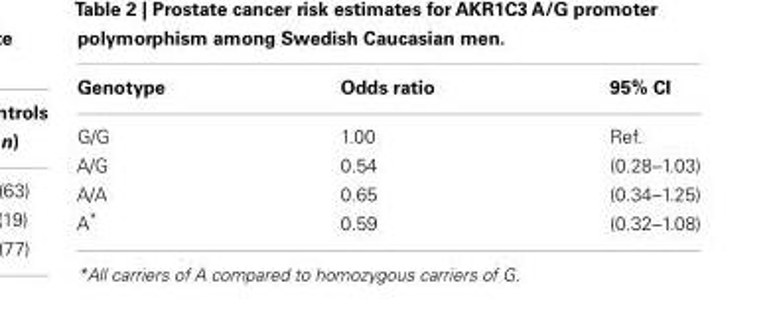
<table><thead><tr><td>Genotype</td><td>Odds ratio</td><td>95% CI</td></tr></thead><tbody><tr><td>G/G</td><td>1.00</td><td>Ref.</td></tr><tr><td>A/G</td><td>0.54</td><td>(0.28–1.03)</td></tr><tr><td>A/A</td><td>0.65</td><td>(0.34–1.25)</td></tr><tr><td>A*</td><td>0.59</td><td>(0.32–1.08)</td></tr></tbody></table>